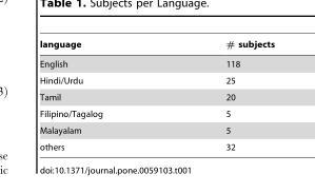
<table><thead><tr><td>language</td><td># subjects</td></tr></thead><tbody><tr><td>English</td><td>118</td></tr><tr><td>Hindi/Urdu</td><td>25</td></tr><tr><td>Tamil</td><td>20</td></tr><tr><td>Filipino/Tagalog</td><td>5</td></tr><tr><td>Malayalam</td><td>5</td></tr><tr><td>others</td><td>32</td></tr></tbody></table>